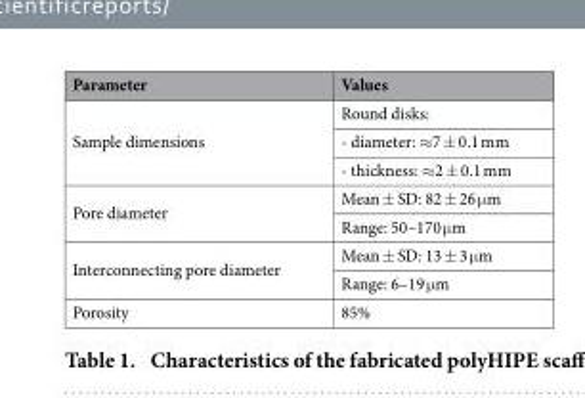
<table><thead><tr><td>Parameter</td><td>Values</td></tr></thead><tbody><tr><td rowspan="3">Sample dimensions</td><td>Round disks:</td></tr><tr><td>- diameter: ≈ 7 ± 0.1 mm</td></tr><tr><td>- thickness: ≈ 2 ± 0.1 mm</td></tr><tr><td rowspan="2">Pore diameter</td><td>Mean ± SD: 82 ± 26 μ m</td></tr><tr><td>Range: 50–170 μ m</td></tr><tr><td rowspan="2">Interconnecting pore diameter</td><td>Mean ± SD: 13 ± 3 μ m</td></tr><tr><td>Range: 6–19 μ m</td></tr><tr><td>Porosity</td><td>85%</td></tr></tbody></table>